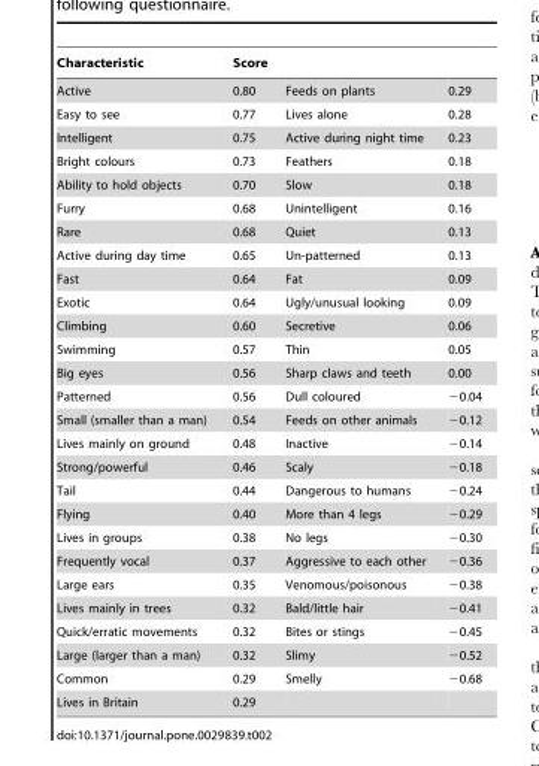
<table><thead><tr><td>Characteristic</td><td>Score</td><td></td><td></td></tr></thead><tbody><tr><td>Active</td><td>0.80</td><td>Feeds on plants</td><td>0.29</td></tr><tr><td>Easy to see</td><td>0.77</td><td>Lives alone</td><td>0.28</td></tr><tr><td>Intelligent</td><td>0.75</td><td>Active during night time</td><td>0.23</td></tr><tr><td>Bright colours</td><td>0.73</td><td>Feathers</td><td>0.18</td></tr><tr><td>Ability to hold objects</td><td>0.70</td><td>Slow</td><td>0.18</td></tr><tr><td>Furry</td><td>0.68</td><td>Unintelligent</td><td>0.16</td></tr><tr><td>Rare</td><td>0.68</td><td>Quiet</td><td>0.13</td></tr><tr><td>Active during day time</td><td>0.65</td><td>Un-patterned</td><td>0.13</td></tr><tr><td>Fast</td><td>0.64</td><td>Fat</td><td>0.09</td></tr><tr><td>Exotic</td><td>0.64</td><td>Ugly/unusual looking</td><td>0.09</td></tr><tr><td>Climbing</td><td>0.60</td><td>Secretive</td><td>0.06</td></tr><tr><td>Swimming</td><td>0.57</td><td>Thin</td><td>0.05</td></tr><tr><td>Big eyes</td><td>0.56</td><td>Sharp claws and teeth</td><td>0.00</td></tr><tr><td>Patterned</td><td>0.56</td><td>Dull coloured</td><td>−0.04</td></tr><tr><td>Small (smaller than a man)</td><td>0.54</td><td>Feeds on other animals</td><td>−0.12</td></tr><tr><td>Lives mainly on ground</td><td>0.48</td><td>Inactive</td><td>−0.14</td></tr><tr><td>Strong/powerful</td><td>0.46</td><td>Scaly</td><td>−0.18</td></tr><tr><td>Tail</td><td>0.44</td><td>Dangerous to humans</td><td>−0.24</td></tr><tr><td>Flying</td><td>0.40</td><td>More than 4 legs</td><td>−0.29</td></tr><tr><td>Lives in groups</td><td>0.38</td><td>No legs</td><td>−0.30</td></tr><tr><td>Frequently vocal</td><td>0.37</td><td>Aggressive to each other</td><td>−0.36</td></tr><tr><td>Large ears</td><td>0.35</td><td>Venomous/poisonous</td><td>−0.38</td></tr><tr><td>Lives mainly in trees</td><td>0.32</td><td>Bald/little hair</td><td>−0.41</td></tr><tr><td>Quick/erratic movements</td><td>0.32</td><td>Bites or stings</td><td>−0.45</td></tr><tr><td>Large (larger than a man)</td><td>0.32</td><td>Slimy</td><td>−0.52</td></tr><tr><td>Common</td><td>0.29</td><td>Smelly</td><td>−0.68</td></tr><tr><td>Lives in Britain</td><td>0.29</td><td></td><td></td></tr></tbody></table>